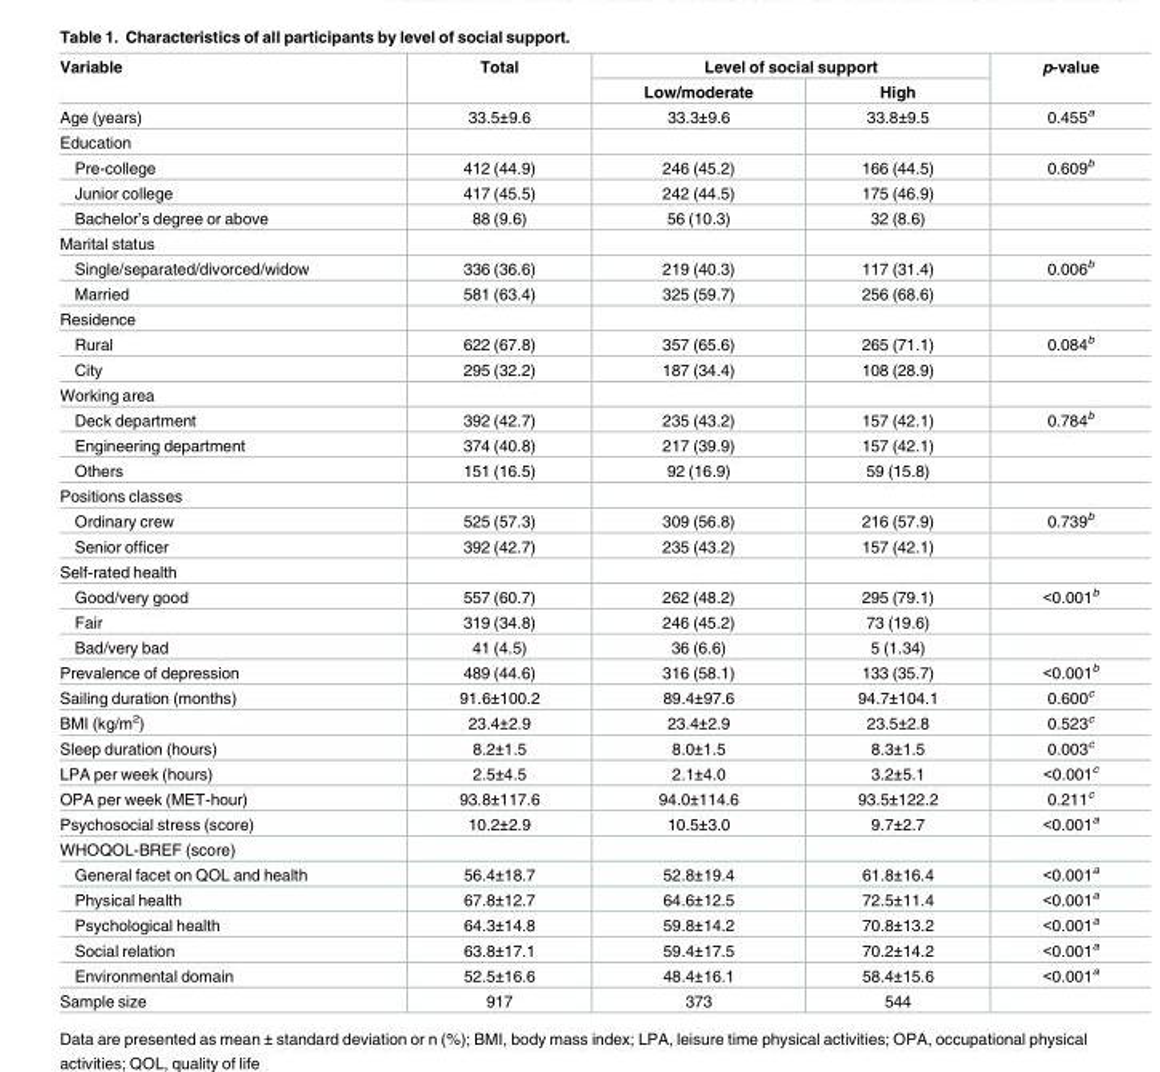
<table><thead><tr><td rowspan="2">Variable</td><td rowspan="2">Total</td><td colspan="2">Level of social support</td><td rowspan="2">p-value</td></tr><tr><td>Low/moderate</td><td>High</td></tr></thead><tbody><tr><td>Age (years)</td><td>33.5±9.6</td><td>33.3±9.6</td><td>33.8±9.5</td><td>0.455<sup>a</sup></td></tr><tr><td colspan="5">Education</td></tr><tr><td>Pre-college</td><td>412 (44.9)</td><td>246 (45.2)</td><td>166 (44.5)</td><td>0.609<sup>b</sup></td></tr><tr><td>Junior college</td><td>417 (45.5)</td><td>242 (44.5)</td><td>175 (46.9)</td><td></td></tr><tr><td>Bachelor’s degree or above</td><td>88 (9.6)</td><td>56 (10.3)</td><td>32 (8.6)</td><td></td></tr><tr><td colspan="5">Marital status</td></tr><tr><td>Single/separated/divorced/widow</td><td>336 (36.6)</td><td>219 (40.3)</td><td>117 (31.4)</td><td>0.006<sup>b</sup></td></tr><tr><td>Married</td><td>581 (63.4)</td><td>325 (59.7)</td><td>256 (68.6)</td><td></td></tr><tr><td colspan="5">Residence</td></tr><tr><td>Rural</td><td>622 (67.8)</td><td>357 (65.6)</td><td>265 (71.1)</td><td>0.084<sup>b</sup></td></tr><tr><td>City</td><td>295 (32.2)</td><td>187 (34.4)</td><td>108 (28.9)</td><td></td></tr><tr><td colspan="5">Working area</td></tr><tr><td>Deck department</td><td>392 (42.7)</td><td>235 (43.2)</td><td>157 (42.1)</td><td>0.784<sup>b</sup></td></tr><tr><td>Engineering department</td><td>374 (40.8)</td><td>217 (39.9)</td><td>157 (42.1)</td><td></td></tr><tr><td>Others</td><td>151 (16.5)</td><td>92 (16.9)</td><td>59 (15.8)</td><td></td></tr><tr><td colspan="5">Positions classes</td></tr><tr><td>Ordinary crew</td><td>525 (57.3)</td><td>309 (56.8)</td><td>216 (57.9)</td><td>0.739<sup>b</sup></td></tr><tr><td>Senior officer</td><td>392 (42.7)</td><td>235 (43.2)</td><td>157 (42.1)</td><td></td></tr><tr><td colspan="5">Self-rated health</td></tr><tr><td>Good/very good</td><td>557 (60.7)</td><td>262 (48.2)</td><td>295 (79.1)</td><td>&lt;0.001<sup>b</sup></td></tr><tr><td>Fair</td><td>319 (34.8)</td><td>246 (45.2)</td><td>73 (19.6)</td><td></td></tr><tr><td>Bad/very bad</td><td>41 (4.5)</td><td>36 (6.6)</td><td>5 (1.34)</td><td></td></tr><tr><td>Prevalence of depression</td><td>489 (44.6)</td><td>316 (58.1)</td><td>133 (35.7)</td><td>&lt;0.001<sup>b</sup></td></tr><tr><td>Sailing duration (months)</td><td>91.6±100.2</td><td>89.4±97.6</td><td>94.7±104.1</td><td>0.600<sup>c</sup></td></tr><tr><td>BMI (kg/m<sup>2</sup>)</td><td>23.4±2.9</td><td>23.4±2.9</td><td>23.5±2.8</td><td>0.523<sup>c</sup></td></tr><tr><td>Sleep duration (hours)</td><td>8.2±1.5</td><td>8.0±1.5</td><td>8.3±1.5</td><td>0.003<sup>c</sup></td></tr><tr><td>LPA per week (hours)</td><td>2.5±4.5</td><td>2.1±4.0</td><td>3.2±5.1</td><td>&lt;0.001<sup>c</sup></td></tr><tr><td>OPA per week (MET-hour)</td><td>93.8±117.6</td><td>94.0±114.6</td><td>93.5±122.2</td><td>0.211<sup>c</sup></td></tr><tr><td>Psychosocial stress (score)</td><td>10.2±2.9</td><td>10.5±3.0</td><td>9.7±2.7</td><td>&lt;0.001<sup>a</sup></td></tr><tr><td colspan="5">WHOQOL-BREF (score)</td></tr><tr><td>General facet on QOL and health</td><td>56.4±18.7</td><td>52.8±19.4</td><td>61.8±16.4</td><td>&lt;0.001<sup>a</sup></td></tr><tr><td>Physical health</td><td>67.8±12.7</td><td>64.6±12.5</td><td>72.5±11.4</td><td>&lt;0.001<sup>a</sup></td></tr><tr><td>Psychological health</td><td>64.3±14.8</td><td>59.8±14.2</td><td>70.8±13.2</td><td>&lt;0.001<sup>a</sup></td></tr><tr><td>Social relation</td><td>63.8±17.1</td><td>59.4±17.5</td><td>70.2±14.2</td><td>&lt;0.001<sup>a</sup></td></tr><tr><td>Environmental domain</td><td>52.5±16.6</td><td>48.4±16.1</td><td>58.4±15.6</td><td>&lt;0.001<sup>a</sup></td></tr><tr><td>Sample size</td><td>917</td><td>373</td><td>544</td><td></td></tr></tbody></table>